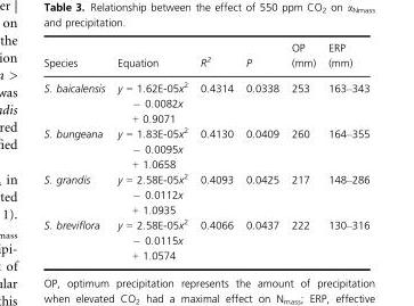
<table><thead><tr><td>Species</td><td>Equation</td><td>R<sup>2</sup></td><td>P</td><td>OP (mm)</td><td>ERP (mm)</td></tr></thead><tbody><tr><td>S. baicalensis</td><td>y = 1.62E-05x<sup>2</sup> − 0.0082x + 0.9071</td><td>0.4314</td><td>0.0338</td><td>253</td><td>163–343</td></tr><tr><td>S. bungeana</td><td>y = 1.83E-05x<sup>2</sup> − 0.0095x + 1.0658</td><td>0.4130</td><td>0.0409</td><td>260</td><td>164–355</td></tr><tr><td>S. grandis</td><td>y = 2.58E-05x<sup>2</sup> − 0.0112x + 1.0935</td><td>0.4093</td><td>0.0425</td><td>217</td><td>148–286</td></tr><tr><td>S. breviflora</td><td>y = 2.58E-05x<sup>2</sup> − 0.0115x + 1.0574</td><td>0.4066</td><td>0.0437</td><td>222</td><td>130–316</td></tr></tbody></table>